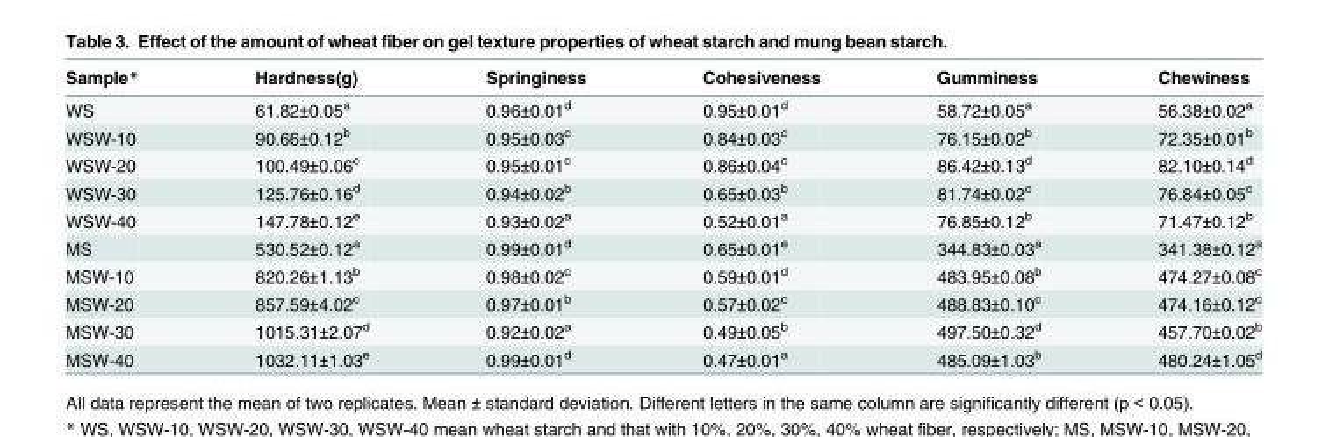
<table><thead><tr><td>Sample*</td><td>Hardness(g)</td><td>Springiness</td><td>Cohesiveness</td><td>Gumminess</td><td>Chewiness</td></tr></thead><tbody><tr><td>WS</td><td>61.82±0.05<sup>a</sup></td><td>0.96±0.01<sup>d</sup></td><td>0.95±0.01<sup>d</sup></td><td>58.72±0.05<sup>a</sup></td><td>56.38±0.02<sup>a</sup></td></tr><tr><td>WSW-10</td><td>90.66±0.12<sup>b</sup></td><td>0.95±0.03<sup>c</sup></td><td>0.84±0.03<sup>c</sup></td><td>76.15±0.02<sup>b</sup></td><td>72.35±0.01<sup>b</sup></td></tr><tr><td>WSW-20</td><td>100.49±0.06<sup>c</sup></td><td>0.95±0.01<sup>c</sup></td><td>0.86±0.04<sup>c</sup></td><td>86.42±0.13<sup>d</sup></td><td>82.10±0.14<sup>d</sup></td></tr><tr><td>WSW-30</td><td>125.76±0.16<sup>d</sup></td><td>0.94±0.02<sup>b</sup></td><td>0.65±0.03<sup>b</sup></td><td>81.74±0.02<sup>c</sup></td><td>76.84±0.05<sup>c</sup></td></tr><tr><td>WSW-40</td><td>147.78±0.12<sup>e</sup></td><td>0.93±0.02<sup>a</sup></td><td>0.52±0.01<sup>a</sup></td><td>76.85±0.12<sup>b</sup></td><td>71.47±0.12<sup>b</sup></td></tr><tr><td>MS</td><td>530.52±0.12<sup>a</sup></td><td>0.99±0.01<sup>d</sup></td><td>0.65±0.01<sup>e</sup></td><td>344.83±0.03<sup>a</sup></td><td>341.38±0.12<sup>a</sup></td></tr><tr><td>MSW-10</td><td>820.26±1.13<sup>b</sup></td><td>0.98±0.02<sup>c</sup></td><td>0.59±0.01<sup>d</sup></td><td>483.95±0.08<sup>b</sup></td><td>474.27±0.08<sup>c</sup></td></tr><tr><td>MSW-20</td><td>857.59±4.02<sup>c</sup></td><td>0.97±0.01<sup>b</sup></td><td>0.57±0.02<sup>c</sup></td><td>488.83±0.10<sup>c</sup></td><td>474.16±0.12<sup>c</sup></td></tr><tr><td>MSW-30</td><td>1015.31±2.07<sup>d</sup></td><td>0.92±0.02<sup>a</sup></td><td>0.49±0.05<sup>b</sup></td><td>497.50±0.32<sup>d</sup></td><td>457.70±0.02<sup>b</sup></td></tr><tr><td>MSW-40</td><td>1032.11±1.03<sup>e</sup></td><td>0.99±0.01<sup>d</sup></td><td>0.47±0.01<sup>a</sup></td><td>485.09±1.03<sup>b</sup></td><td>480.24±1.05<sup>d</sup></td></tr></tbody></table>